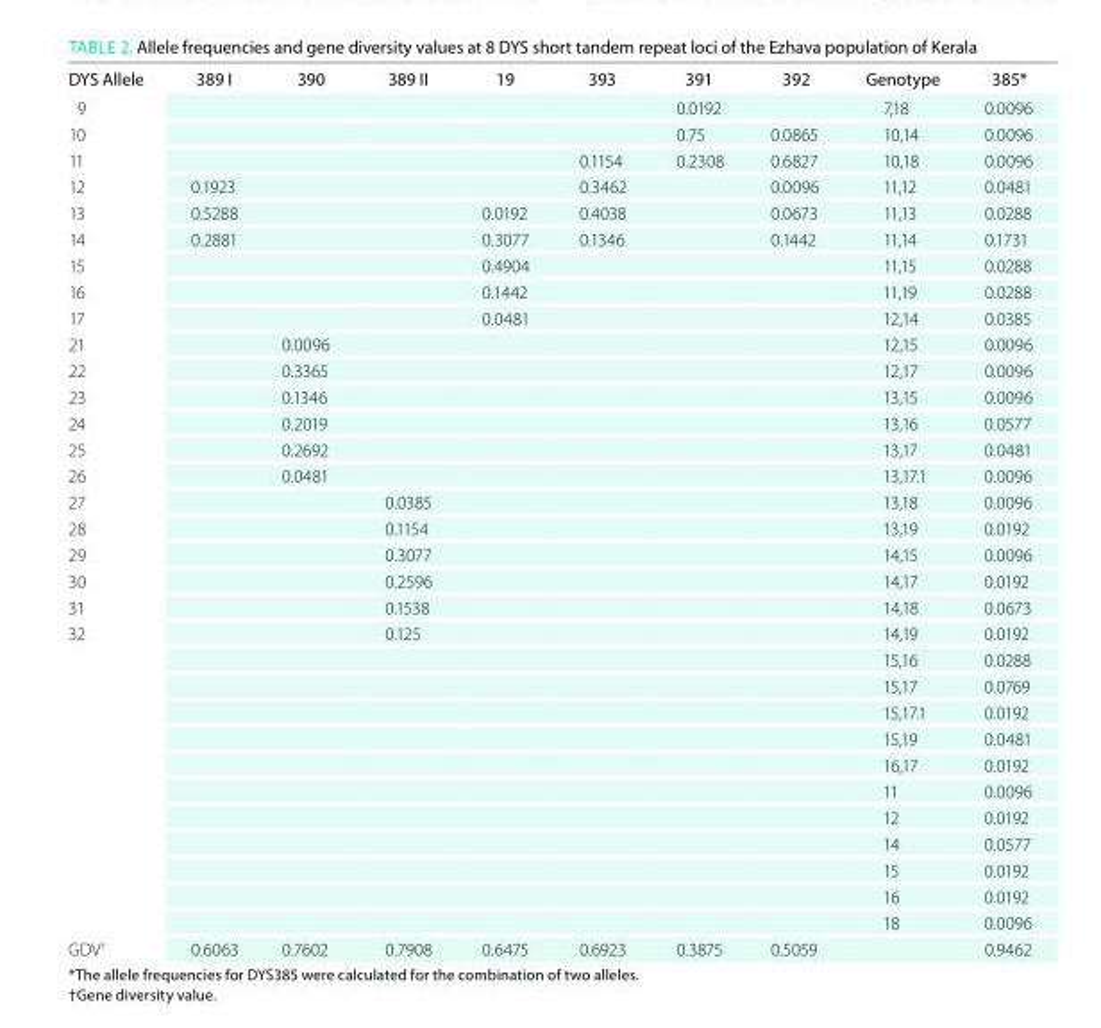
<table><thead><tr><td>dyS Allele</td><td>389 i</td><td>390</td><td>389 ii</td><td>19</td><td>393</td><td>391</td><td>392</td><td>Genotype</td><td>385*</td></tr></thead><tbody><tr><td>9</td><td></td><td></td><td></td><td></td><td></td><td>0.0192</td><td></td><td>7,18</td><td>0.0096</td></tr><tr><td>10</td><td></td><td></td><td></td><td></td><td></td><td>0.75</td><td>0.0865</td><td>10,14</td><td>0.0096</td></tr><tr><td>11</td><td></td><td></td><td></td><td></td><td>0.1154</td><td>0.2308</td><td>0.6827</td><td>10,18</td><td>0.0096</td></tr><tr><td>12</td><td>0.1923</td><td></td><td></td><td></td><td>0.3462</td><td></td><td>0.0096</td><td>11,12</td><td>0.0481</td></tr><tr><td>13</td><td>0.5288</td><td></td><td></td><td>0.0192</td><td>0.4038</td><td></td><td>0.0673</td><td>11,13</td><td>0.0288</td></tr><tr><td>14</td><td>0.2881</td><td></td><td></td><td>0.3077</td><td>0.1346</td><td></td><td>0.1442</td><td>11,14</td><td>0.1731</td></tr><tr><td>15</td><td></td><td></td><td></td><td>0.4904</td><td></td><td></td><td></td><td>11,15</td><td>0.0288</td></tr><tr><td>16</td><td></td><td></td><td></td><td>0.1442</td><td></td><td></td><td></td><td>11,19</td><td>0.0288</td></tr><tr><td>17</td><td></td><td></td><td></td><td>0.0481</td><td></td><td></td><td></td><td>12,14</td><td>0.0385</td></tr><tr><td>21</td><td></td><td>0.0096</td><td></td><td></td><td></td><td></td><td></td><td>12,15</td><td>0.0096</td></tr><tr><td>22</td><td></td><td>0.3365</td><td></td><td></td><td></td><td></td><td></td><td>12,17</td><td>0.0096</td></tr><tr><td>23</td><td></td><td>0.1346</td><td></td><td></td><td></td><td></td><td></td><td>13,15</td><td>0.0096</td></tr><tr><td>24</td><td></td><td>0.2019</td><td></td><td></td><td></td><td></td><td></td><td>13,16</td><td>0.0577</td></tr><tr><td>25</td><td></td><td>0.2692</td><td></td><td></td><td></td><td></td><td></td><td>13,17</td><td>0.0481</td></tr><tr><td>26</td><td></td><td>0.0481</td><td></td><td></td><td></td><td></td><td></td><td>13,17.1</td><td>0.0096</td></tr><tr><td>27</td><td></td><td></td><td>0.0385</td><td></td><td></td><td></td><td></td><td>13,18</td><td>0.0096</td></tr><tr><td>28</td><td></td><td></td><td>0.1154</td><td></td><td></td><td></td><td></td><td>13,19</td><td>0.0192</td></tr><tr><td>29</td><td></td><td></td><td>0.3077</td><td></td><td></td><td></td><td></td><td>14,15</td><td>0.0096</td></tr><tr><td>30</td><td></td><td></td><td>0.2596</td><td></td><td></td><td></td><td></td><td>14,17</td><td>0.0192</td></tr><tr><td>31</td><td></td><td></td><td>0.1538</td><td></td><td></td><td></td><td></td><td>14,18</td><td>0.0673</td></tr><tr><td rowspan="12">32</td><td></td><td></td><td>0.125</td><td></td><td></td><td></td><td></td><td>14,19</td><td>0.0192</td></tr><tr><td></td><td></td><td></td><td></td><td></td><td></td><td></td><td>15,16</td><td>0.0288</td></tr><tr><td></td><td></td><td></td><td></td><td></td><td></td><td></td><td>15,17</td><td>0.0769</td></tr><tr><td></td><td></td><td></td><td></td><td></td><td></td><td></td><td>15,17.1</td><td>0.0192</td></tr><tr><td></td><td></td><td></td><td></td><td></td><td></td><td></td><td>15,19</td><td>0.0481</td></tr><tr><td></td><td></td><td></td><td></td><td></td><td></td><td></td><td>16,17</td><td>0.0192</td></tr><tr><td></td><td></td><td></td><td></td><td></td><td></td><td></td><td>11</td><td>0.0096</td></tr><tr><td></td><td></td><td></td><td></td><td></td><td></td><td></td><td>12</td><td>0.0192</td></tr><tr><td></td><td></td><td></td><td></td><td></td><td></td><td></td><td>14</td><td>0.0577</td></tr><tr><td></td><td></td><td></td><td></td><td></td><td></td><td></td><td>15</td><td>0.0192</td></tr><tr><td></td><td></td><td></td><td></td><td></td><td></td><td></td><td>16</td><td>0.0192</td></tr><tr><td></td><td></td><td></td><td></td><td></td><td></td><td></td><td>18</td><td>0.0096</td></tr><tr><td>GDV†</td><td>0.6063</td><td>0.7602</td><td>0.7908</td><td>0.6475</td><td>0.6923</td><td>0.3875</td><td>0.5059</td><td></td><td>0.9462</td></tr></tbody></table>